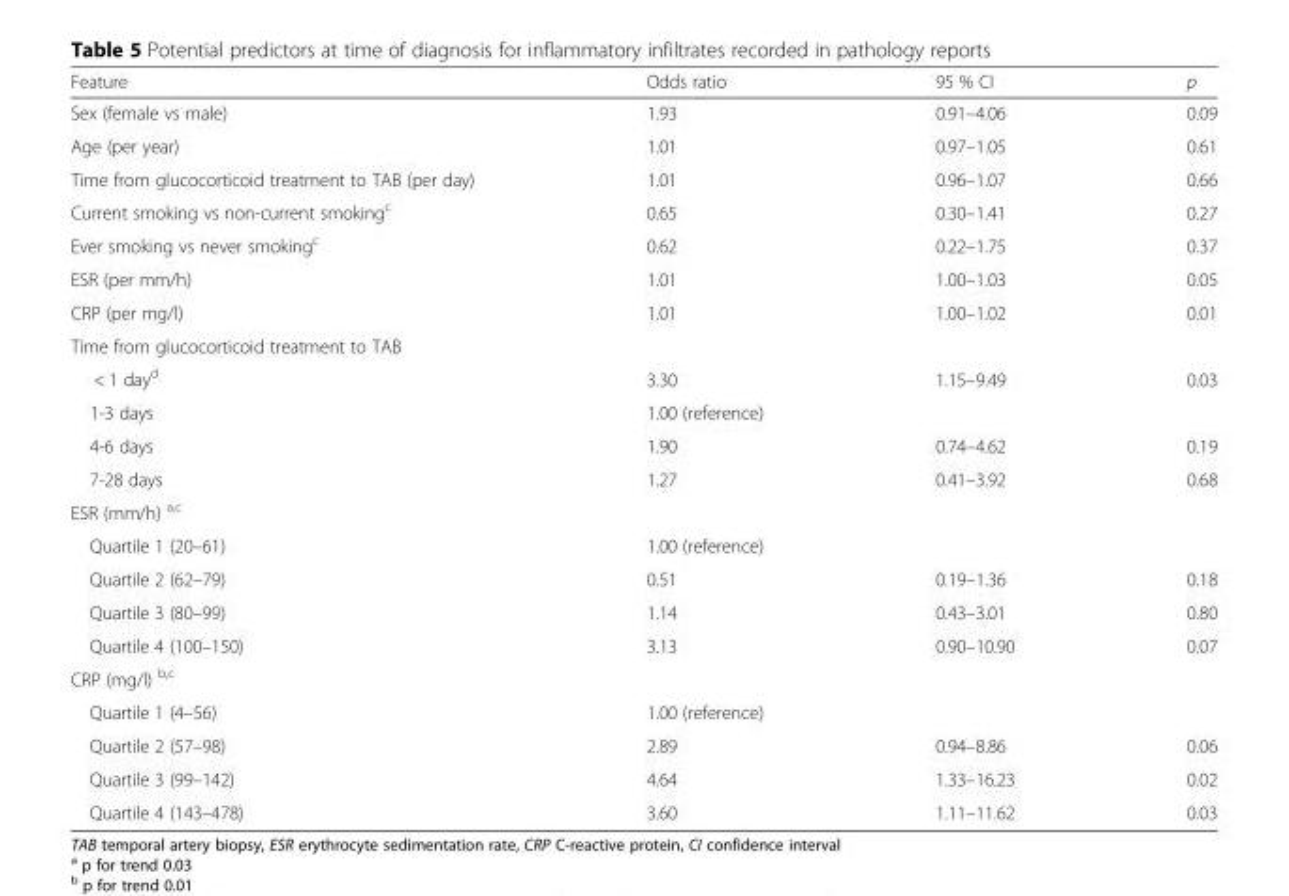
<table><thead><tr><td>Feature</td><td>Odds ratio</td><td>95 % CI</td><td>p</td></tr></thead><tbody><tr><td>Sex (female vs male)</td><td>1.93</td><td>0.91–4.06</td><td>0.09</td></tr><tr><td>Age (per year)</td><td>1.01</td><td>0.97–1.05</td><td>0.61</td></tr><tr><td>Time from glucocorticoid treatment to TAB (per day)</td><td>1.01</td><td>0.96–1.07</td><td>0.66</td></tr><tr><td>Current smoking vs non-current smoking<sup>c</sup></td><td>0.65</td><td>0.30–1.41</td><td>0.27</td></tr><tr><td>Ever smoking vs never smoking<sup>c</sup></td><td>0.62</td><td>0.22–1.75</td><td>0.37</td></tr><tr><td>ESR (per mm/h)</td><td>1.01</td><td>1.00–1.03</td><td>0.05</td></tr><tr><td>CRP (per mg/l)</td><td>1.01</td><td>1.00–1.02</td><td>0.01</td></tr><tr><td colspan="4">Time from glucocorticoid treatment to TAB</td></tr><tr><td>&lt; 1 day<sup>d</sup></td><td>3.30</td><td>1.15–9.49</td><td>0.03</td></tr><tr><td>1-3 days</td><td>1.00 (reference)</td><td></td><td></td></tr><tr><td>4-6 days</td><td>1.90</td><td>0.74–4.62</td><td>0.19</td></tr><tr><td>7-28 days</td><td>1.27</td><td>0.41–3.92</td><td>0.68</td></tr><tr><td colspan="4">ESR (mm/h) <sup>a,c</sup></td></tr><tr><td>Quartile 1 (20–61)</td><td>1.00 (reference)</td><td></td><td></td></tr><tr><td>Quartile 2 (62–79)</td><td>0.51</td><td>0.19–1.36</td><td>0.18</td></tr><tr><td>Quartile 3 (80–99)</td><td>1.14</td><td>0.43–3.01</td><td>0.80</td></tr><tr><td>Quartile 4 (100–150)</td><td>3.13</td><td>0.90–10.90</td><td>0.07</td></tr><tr><td colspan="4">CRP (mg/l) <sup>b,c</sup></td></tr><tr><td>Quartile 1 (4–56)</td><td>1.00 (reference)</td><td></td><td></td></tr><tr><td>Quartile 2 (57–98)</td><td>2.89</td><td>0.94–8.86</td><td>0.06</td></tr><tr><td>Quartile 3 (99–142)</td><td>4.64</td><td>1.33–16.23</td><td>0.02</td></tr><tr><td>Quartile 4 (143–478)</td><td>3.60</td><td>1.11–11.62</td><td>0.03</td></tr></tbody></table>